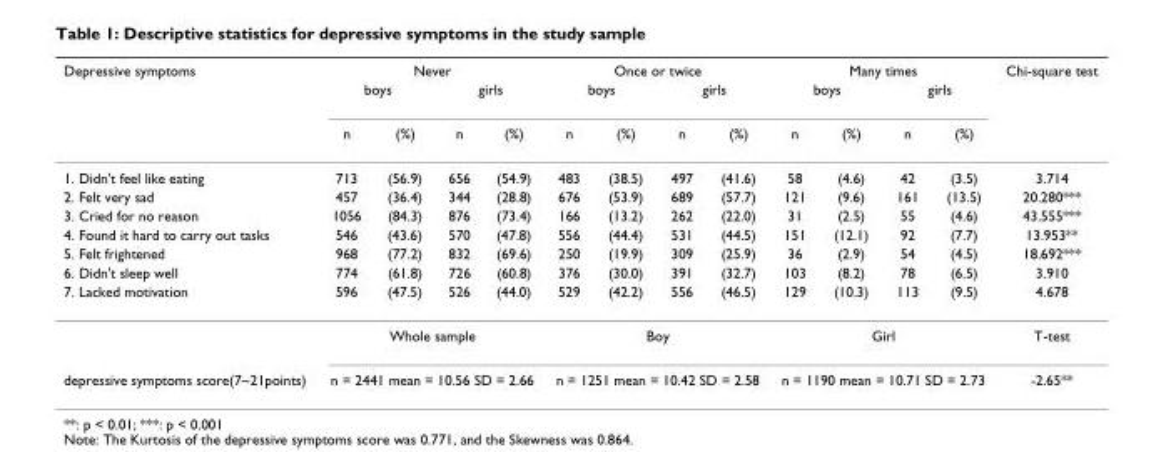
<table><thead><tr><td rowspan="3">Depressive symptoms</td><td colspan="4">Never</td><td colspan="4">Once or twice</td><td colspan="4">Many times</td><td rowspan="3">Chi-square test</td></tr><tr><td colspan="2">boys</td><td colspan="2">girls</td><td colspan="2">boys</td><td colspan="2">girls</td><td colspan="2">boys</td><td colspan="2">girls</td></tr><tr><td>n</td><td>(%)</td><td>n</td><td>(%)</td><td>n</td><td>(%)</td><td>n</td><td>(%)</td><td>n</td><td>(%)</td><td>n</td><td>(%)</td></tr></thead><tbody><tr><td>1. Didn&#x27;t feel like eating</td><td>713</td><td>(56.9)</td><td>656</td><td>(54.9)</td><td>483</td><td>(38.5)</td><td>497</td><td>(41.6)</td><td>58</td><td>(4.6)</td><td>42</td><td>(3.5)</td><td>3.714</td></tr><tr><td>2. Felt very sad</td><td>457</td><td>(36.4)</td><td>344</td><td>(28.8)</td><td>676</td><td>(53.9)</td><td>689</td><td>(57.7)</td><td>121</td><td>(9.6)</td><td>161</td><td>(13.5)</td><td>20.280***</td></tr><tr><td>3. Cried for no reason</td><td>1056</td><td>(84.3)</td><td>876</td><td>(73.4)</td><td>166</td><td>(13.2)</td><td>262</td><td>(22.0)</td><td>31</td><td>(2.5)</td><td>55</td><td>(4.6)</td><td>43.555***</td></tr><tr><td>4. Found it hard to carry out tasks</td><td>546</td><td>(43.6)</td><td>570</td><td>(47.8)</td><td>556</td><td>(44.4)</td><td>531</td><td>(44.5)</td><td>151</td><td>(12.1)</td><td>92</td><td>(7.7)</td><td>13.953**</td></tr><tr><td>5. Felt frightened</td><td>968</td><td>(77.2)</td><td>832</td><td>(69.6)</td><td>250</td><td>(19.9)</td><td>309</td><td>(25.9)</td><td>36</td><td>(2.9)</td><td>54</td><td>(4.5)</td><td>18.692***</td></tr><tr><td>6. Didn&#x27;t sleep well</td><td>774</td><td>(61.8)</td><td>726</td><td>(60.8)</td><td>376</td><td>(30.0)</td><td>391</td><td>(32.7)</td><td>103</td><td>(8.2)</td><td>78</td><td>(6.5)</td><td>3.910</td></tr><tr><td rowspan="2">7. Lacked motivation</td><td>596</td><td>(47.5)</td><td>526</td><td>(44.0)</td><td>529</td><td>(42.2)</td><td>556</td><td>(46.5)</td><td>129</td><td>(10.3)</td><td>113</td><td>(9.5)</td><td>4.678</td></tr><tr><td colspan="4">Whole sample</td><td colspan="4">Boy</td><td colspan="4">Girl</td><td>T-test</td></tr><tr><td>depressive symptoms score(7~21points)</td><td colspan="4">n = 2441 mean = 10.56 SD = 2.66</td><td colspan="4">n = 1251 mean = 10.42 SD = 2.58</td><td colspan="4">n = 1190 mean = 10.71 SD = 2.73</td><td>-2.65**</td></tr></tbody></table>